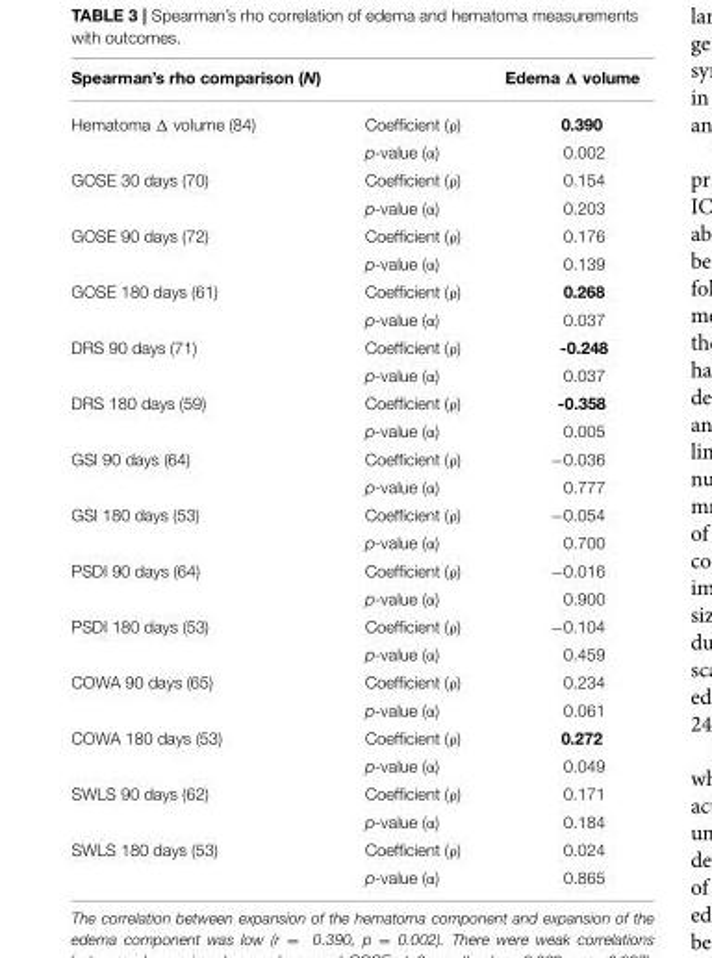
<table><thead><tr><td>Spearman’s rho comparison (N)</td><td></td><td>Edema Δ volume</td></tr></thead><tbody><tr><td rowspan="2">Hematoma Δ volume (84)</td><td>Coefficient (ρ)</td><td>0.390</td></tr><tr><td>p-value (α)</td><td>0.002</td></tr><tr><td rowspan="2">GOSE 30 days (70)</td><td>Coefficient (ρ)</td><td>0.154</td></tr><tr><td>p-value (α)</td><td>0.203</td></tr><tr><td rowspan="2">GOSE 90 days (72)</td><td>Coefficient (ρ)</td><td>0.176</td></tr><tr><td>p-value (α)</td><td>0.139</td></tr><tr><td rowspan="2">GOSE 180 days (61)</td><td>Coefficient (ρ)</td><td>0.268</td></tr><tr><td>p-value (α)</td><td>0.037</td></tr><tr><td rowspan="2">DRS 90 days (71)</td><td>Coefficient (ρ)</td><td>-0.248</td></tr><tr><td>p-value (α)</td><td>0.037</td></tr><tr><td rowspan="2">DRS 180 days (59)</td><td>Coefficient (ρ)</td><td>-0.358</td></tr><tr><td>p-value (α)</td><td>0.005</td></tr><tr><td rowspan="2">GSI 90 days (64)</td><td>Coefficient (ρ)</td><td>−0.036</td></tr><tr><td>p-value (α)</td><td>0.777</td></tr><tr><td rowspan="2">GSI 180 days (53)</td><td>Coefficient (ρ)</td><td>−0.054</td></tr><tr><td>p-value (α)</td><td>0.700</td></tr><tr><td rowspan="2">PSDI 90 days (64)</td><td>Coefficient (ρ)</td><td>−0.016</td></tr><tr><td>p-value (α)</td><td>0.900</td></tr><tr><td rowspan="2">PSDI 180 days (53)</td><td>Coefficient (ρ)</td><td>−0.104</td></tr><tr><td>p-value (α)</td><td>0.459</td></tr><tr><td rowspan="2">COWA 90 days (65)</td><td>Coefficient (ρ)</td><td>0.234</td></tr><tr><td>p-value (α)</td><td>0.061</td></tr><tr><td rowspan="2">COWA 180 days (53)</td><td>Coefficient (ρ)</td><td>0.272</td></tr><tr><td>p-value (α)</td><td>0.049</td></tr><tr><td rowspan="2">SWLS 90 days (62)</td><td>Coefficient (ρ)</td><td>0.171</td></tr><tr><td>p-value (α)</td><td>0.184</td></tr><tr><td rowspan="2">SWLS 180 days (53)</td><td>Coefficient (ρ)</td><td>0.024</td></tr><tr><td>p-value (α)</td><td>0.865</td></tr></tbody></table>